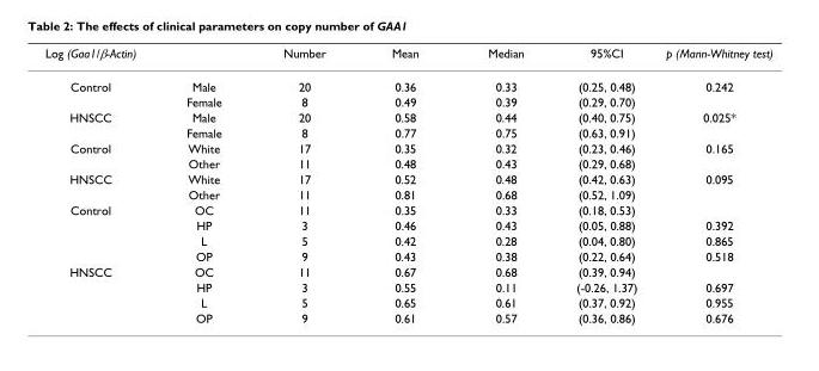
<table><thead><tr><td>Log (Gaa1/β-Actin)</td><td></td><td>Number</td><td>Mean</td><td>Median</td><td>95%CI</td><td>p (Mann-Whitney test)</td></tr></thead><tbody><tr><td rowspan="2">Control</td><td>Male</td><td>20</td><td>0.36</td><td>0.33</td><td>(0.25, 0.48)</td><td>0.242</td></tr><tr><td>Female</td><td>8</td><td>0.49</td><td>0.39</td><td>(0.29, 0.70)</td><td></td></tr><tr><td rowspan="2">HNSCC</td><td>Male</td><td>20</td><td>0.58</td><td>0.44</td><td>(0.40, 0.75)</td><td>0.025*</td></tr><tr><td>Female</td><td>8</td><td>0.77</td><td>0.75</td><td>(0.63, 0.91)</td><td></td></tr><tr><td rowspan="2">Control</td><td>White</td><td>17</td><td>0.35</td><td>0.32</td><td>(0.23, 0.46)</td><td>0.165</td></tr><tr><td>Other</td><td>11</td><td>0.48</td><td>0.43</td><td>(0.29, 0.68)</td><td></td></tr><tr><td rowspan="2">HNSCC</td><td>White</td><td>17</td><td>0.52</td><td>0.48</td><td>(0.42, 0.63)</td><td>0.095</td></tr><tr><td>Other</td><td>11</td><td>0.81</td><td>0.68</td><td>(0.52, 1.09)</td><td></td></tr><tr><td rowspan="4">Control</td><td>OC</td><td>11</td><td>0.35</td><td>0.33</td><td>(0.18, 0.53)</td><td></td></tr><tr><td>HP</td><td>3</td><td>0.46</td><td>0.43</td><td>(0.05, 0.88)</td><td>0.392</td></tr><tr><td>L</td><td>5</td><td>0.42</td><td>0.28</td><td>(0.04, 0.80)</td><td>0.865</td></tr><tr><td>OP</td><td>9</td><td>0.43</td><td>0.38</td><td>(0.22, 0.64)</td><td>0.518</td></tr><tr><td rowspan="4">HNSCC</td><td>OC</td><td>11</td><td>0.67</td><td>0.68</td><td>(0.39, 0.94)</td><td></td></tr><tr><td>HP</td><td>3</td><td>0.55</td><td>0.11</td><td>(-0.26, 1.37)</td><td>0.697</td></tr><tr><td>L</td><td>5</td><td>0.65</td><td>0.61</td><td>(0.37, 0.92)</td><td>0.955</td></tr><tr><td>OP</td><td>9</td><td>0.61</td><td>0.57</td><td>(0.36, 0.86)</td><td>0.676</td></tr></tbody></table>